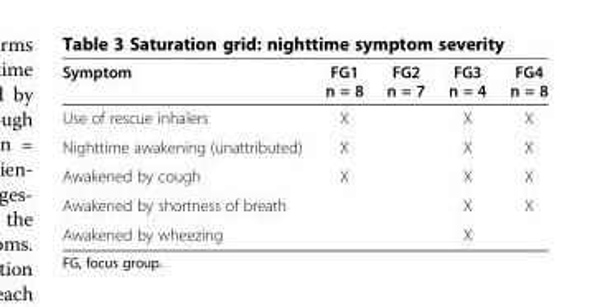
<table><thead><tr><td>Symptom</td><td>FG1 n = 8</td><td>FG2 n = 7</td><td>FG3 n = 4</td><td>FG4 n = 8</td></tr></thead><tbody><tr><td>Use of rescue inhalers</td><td>X</td><td></td><td>X</td><td>X</td></tr><tr><td>Nighttime awakening (unattributed)</td><td>X</td><td></td><td>X</td><td>X</td></tr><tr><td>Awakened by cough</td><td>X</td><td></td><td>X</td><td>X</td></tr><tr><td>Awakened by shortness of breath</td><td></td><td></td><td>X</td><td>X</td></tr><tr><td>Awakened by wheezing</td><td></td><td></td><td>X</td><td></td></tr></tbody></table>